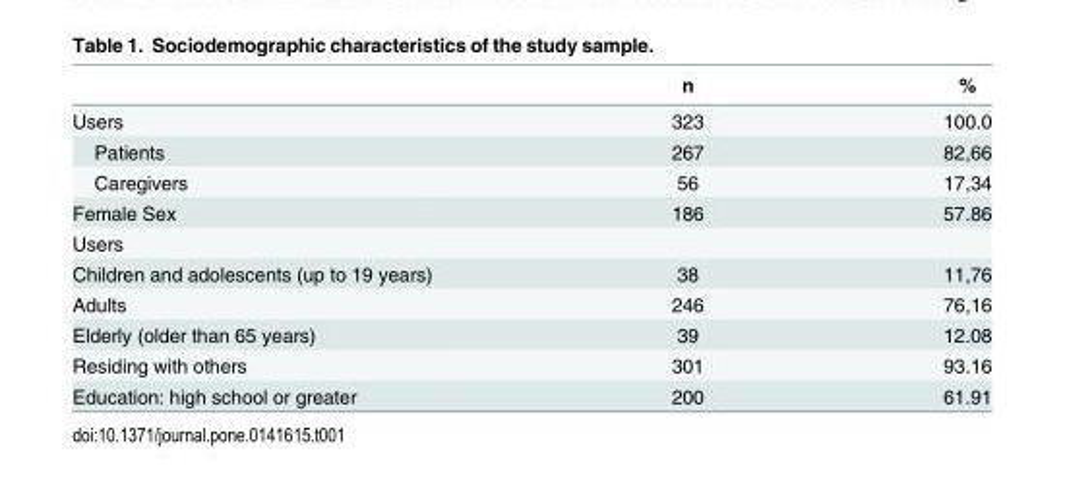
<table><thead><tr><td></td><td>n</td><td>%</td></tr></thead><tbody><tr><td>Users</td><td>323</td><td>100.0</td></tr><tr><td>Patients</td><td>267</td><td>82,66</td></tr><tr><td>Caregivers</td><td>56</td><td>17,34</td></tr><tr><td>Female Sex</td><td>186</td><td>57.86</td></tr><tr><td colspan="3">Users</td></tr><tr><td>Children and adolescents (up to 19 years)</td><td>38</td><td>11,76</td></tr><tr><td>Adults</td><td>246</td><td>76,16</td></tr><tr><td>Elderly (older than 65 years)</td><td>39</td><td>12.08</td></tr><tr><td>Residing with others</td><td>301</td><td>93.16</td></tr><tr><td>Education: high school or greater</td><td>200</td><td>61.91</td></tr></tbody></table>